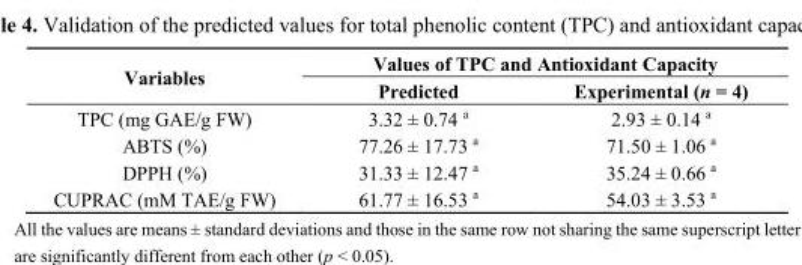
<table><thead><tr><td rowspan="2">Variables</td><td colspan="2">Values of TPC and Antioxidant Capacity</td></tr><tr><td>Predicted</td><td>Experimental (n = 4)</td></tr></thead><tbody><tr><td>TPC (mg GAE/g FW)</td><td>3.32 ± 0.74 <sup>a</sup></td><td>2.93 ± 0.14 <sup>a</sup></td></tr><tr><td>ABTS (%)</td><td>77.26 ± 17.73 <sup>a</sup></td><td>71.50 ± 1.06 <sup>a</sup></td></tr><tr><td>DPPH (%)</td><td>31.33 ± 12.47 <sup>a</sup></td><td>35.24 ± 0.66 <sup>a</sup></td></tr><tr><td>CUPRAC (mM TAE/g FW)</td><td>61.77 ± 16.53 <sup>a</sup></td><td>54.03 ± 3.53 <sup>a</sup></td></tr></tbody></table>